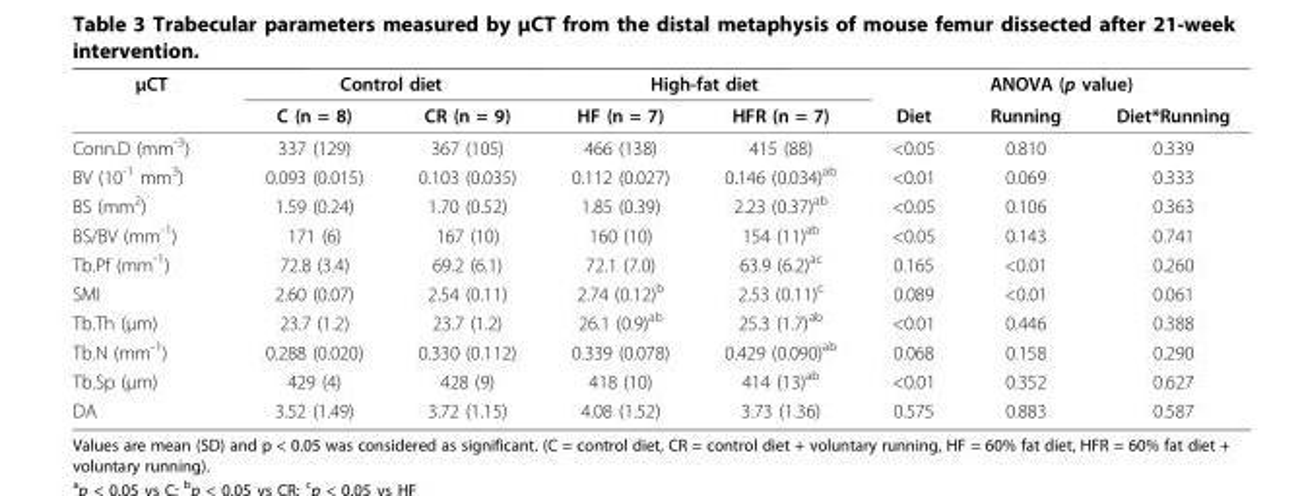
<table><thead><tr><td rowspan="2">μCT</td><td colspan="2">Control diet</td><td colspan="2">High-fat diet</td><td colspan="3">ANOVA (p value)</td></tr><tr><td>C (n = 8)</td><td>CR (n = 9)</td><td>HF (n = 7)</td><td>HFR (n = 7)</td><td>Diet</td><td>Running</td><td>Diet*Running</td></tr></thead><tbody><tr><td>Conn.D (mm<sup>-3</sup>)</td><td>337 (129)</td><td>367 (105)</td><td>466 (138)</td><td>415 (88)</td><td>&lt;0.05</td><td>0.810</td><td>0.339</td></tr><tr><td>BV (10<sup>-1</sup> mm<sup>3</sup>)</td><td>0.093 (0.015)</td><td>0.103 (0.035)</td><td>0.112 (0.027)</td><td>0.146 (0.034)<sup>ab</sup></td><td>&lt;0.01</td><td>0.069</td><td>0.333</td></tr><tr><td>BS (mm<sup>2</sup>)</td><td>1.59 (0.24)</td><td>1.70 (0.52)</td><td>1.85 (0.39)</td><td>2.23 (0.37)<sup>ab</sup></td><td>&lt;0.05</td><td>0.106</td><td>0.363</td></tr><tr><td>BS/BV (mm<sup>-1</sup>)</td><td>171 (6)</td><td>167 (10)</td><td>160 (10)</td><td>154 (11)<sup>ab</sup></td><td>&lt;0.05</td><td>0.143</td><td>0.741</td></tr><tr><td>Tb.Pf (mm<sup>-1</sup>)</td><td>72.8 (3.4)</td><td>69.2 (6.1)</td><td>72.1 (7.0)</td><td>63.9 (6.2)<sup>ac</sup></td><td>0.165</td><td>&lt;0.01</td><td>0.260</td></tr><tr><td>SMI</td><td>2.60 (0.07)</td><td>2.54 (0.11)</td><td>2.74 (0.12)<sup>b</sup></td><td>2.53 (0.11)<sup>c</sup></td><td>0.089</td><td>&lt;0.01</td><td>0.061</td></tr><tr><td>Tb.Th (μm)</td><td>23.7 (1.2)</td><td>23.7 (1.2)</td><td>26.1 (0.9)<sup>ab</sup></td><td>25.3 (1.7)<sup>ab</sup></td><td>&lt;0.01</td><td>0.446</td><td>0.388</td></tr><tr><td>Tb.N (mm<sup>-1</sup>)</td><td>0.288 (0.020)</td><td>0.330 (0.112)</td><td>0.339 (0.078)</td><td>0.429 (0.090)<sup>ab</sup></td><td>0.068</td><td>0.158</td><td>0.290</td></tr><tr><td>Tb.Sp (μm)</td><td>429 (4)</td><td>428 (9)</td><td>418 (10)</td><td>414 (13)<sup>ab</sup></td><td>&lt;0.01</td><td>0.352</td><td>0.627</td></tr><tr><td>DA</td><td>3.52 (1.49)</td><td>3.72 (1.15)</td><td>4.08 (1.52)</td><td>3.73 (1.36)</td><td>0.575</td><td>0.883</td><td>0.587</td></tr></tbody></table>